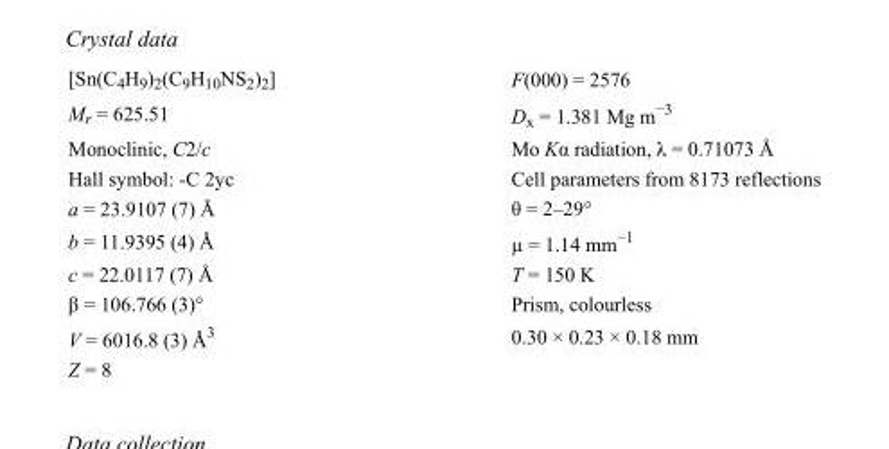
<table><tbody><tr><td>[Sn(C<sub>4</sub>H<sub>9</sub>)<sub>2</sub>(C<sub>9</sub>H<sub>10</sub>NS<sub>2</sub>)<sub>2</sub>]</td><td>F(000) = 2576</td></tr><tr><td>M<sub>r</sub> = 625.51</td><td>D<sub>x</sub> = 1.381 Mg m<sup>−3</sup></td></tr><tr><td>Monoclinic, C2/c</td><td>Mo Kα radiation, λ = 0.71073 Å</td></tr><tr><td>Hall symbol: -C 2yc</td><td>Cell parameters from 8173 reflections</td></tr><tr><td>a = 23.9107 (7) Å</td><td>θ = 2–29°</td></tr><tr><td>b = 11.9395 (4) Å</td><td>µ = 1.14 mm<sup>−1</sup></td></tr><tr><td>c = 22.0117 (7) Å</td><td>T = 150 K</td></tr><tr><td>β = 106.766 (3)°</td><td>Prism, colourless</td></tr><tr><td>V = 6016.8 (3) Å<sup>3</sup></td><td>0.30 × 0.23 × 0.18 mm</td></tr><tr><td>Z = 8</td><td></td></tr></tbody></table>